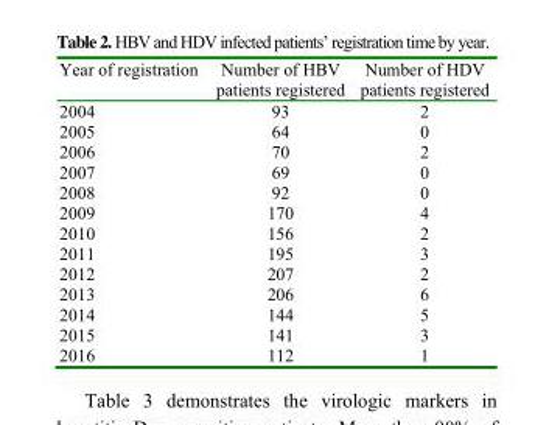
<table><thead><tr><td>Year of registration</td><td>Number of HBV patients registered</td><td>Number of HDV patients registered</td></tr></thead><tbody><tr><td>2004</td><td>93</td><td>2</td></tr><tr><td>2005</td><td>64</td><td>0</td></tr><tr><td>2006</td><td>70</td><td>2</td></tr><tr><td>2007</td><td>69</td><td>0</td></tr><tr><td>2008</td><td>92</td><td>0</td></tr><tr><td>2009</td><td>170</td><td>4</td></tr><tr><td>2010</td><td>156</td><td>2</td></tr><tr><td>2011</td><td>195</td><td>3</td></tr><tr><td>2012</td><td>207</td><td>2</td></tr><tr><td>2013</td><td>206</td><td>6</td></tr><tr><td>2014</td><td>144</td><td>5</td></tr><tr><td>2015</td><td>141</td><td>3</td></tr><tr><td>2016</td><td>112</td><td>1</td></tr></tbody></table>